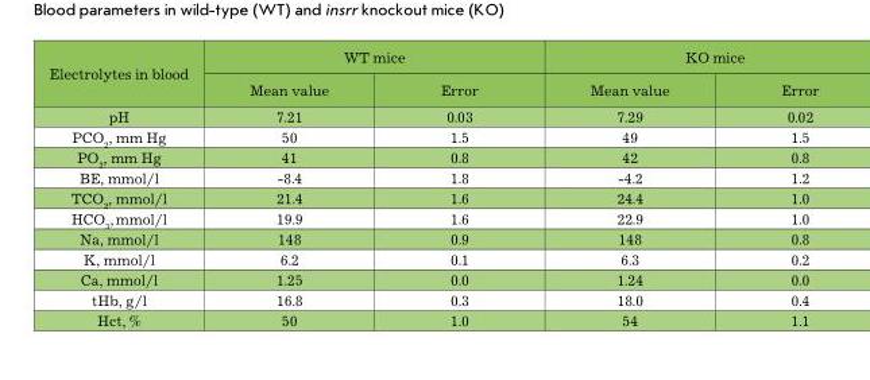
<table><thead><tr><td rowspan="2">electrolytes in blood</td><td colspan="2">Wt mice</td><td colspan="2">KO mice</td></tr><tr><td>Mean value</td><td>error</td><td>Mean value</td><td>error</td></tr></thead><tbody><tr><td>рН</td><td>7.21</td><td>0.03</td><td>7.29</td><td>0.02</td></tr><tr><td>РСО<sub>2</sub>, mm Hg</td><td>50</td><td>1.5</td><td>49</td><td>1.5</td></tr><tr><td>РО<sub>2</sub>, mm Hg</td><td>41</td><td>0.8</td><td>42</td><td>0.8</td></tr><tr><td>Be, mmol/l</td><td>-8.4</td><td>1.8</td><td>-4.2</td><td>1.2</td></tr><tr><td>tcO<sub>2</sub>, mmol/l</td><td>21.4</td><td>1.6</td><td>24.4</td><td>1.0</td></tr><tr><td>HcO<sub>3</sub>, mmol/l</td><td>19.9</td><td>1.6</td><td>22.9</td><td>1.0</td></tr><tr><td>na, mmol/l</td><td>148</td><td>0.9</td><td>148</td><td>0.8</td></tr><tr><td>K, mmol/l</td><td>6.2</td><td>0.1</td><td>6.3</td><td>0.2</td></tr><tr><td>ca, mmol/l</td><td>1.25</td><td>0.0</td><td>1.24</td><td>0.0</td></tr><tr><td>tHb, g/l</td><td>16.8</td><td>0.3</td><td>18.0</td><td>0.4</td></tr><tr><td>Hct, %</td><td>50</td><td>1.0</td><td>54</td><td>1.1</td></tr></tbody></table>